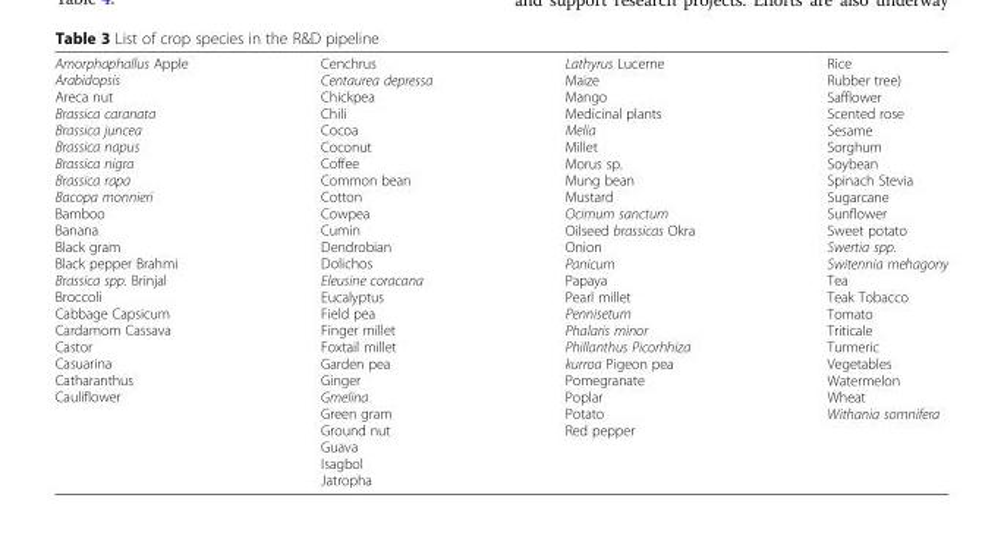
<table><tbody><tr><td>Amorphaphallus Apple Arabidopsis Areca nut Brassica caranata Brassica juncea Brassica napus Brassica nigra Brassica rapa Bacopa monnieri Bamboo Banana Black gram Black pepper Brahmi Brassica spp. Brinjal Broccoli Cabbage Capsicum Cardamom Cassava Castor Casuarina Catharanthus Cauliflower</td><td>Cenchrus Centaurea depressa Chickpea Chili Cocoa Coconut Coffee Common bean Cotton Cowpea Cumin Dendrobian Dolichos Eleusine coracana Eucalyptus Field pea Finger millet Foxtail millet Garden pea Ginger Gmelina Green gram Ground nut Guava Isagbol Jatropha</td><td>Lathyrus Lucerne Maize Mango Medicinal plants Melia Millet Morus sp. Mung bean Mustard Ocimum sanctum Oilseed brassicas Okra Onion Panicum Papaya Pearl millet Pennisetum Phalaris minor Phillanthus Picorhhiza kurroa Pigeon pea Pomegranate Poplar Potato Red pepper</td><td>Rice Rubber tree) Safflower Scented rose Sesame Sorghum Soybean Spinach Stevia Sugarcane Sunflower Sweet potato Swertia spp. Switennia mehagony Tea Teak Tobacco Tomato Triticale Turmeric Vegetables Watermelon Wheat Withania somnifera</td></tr></tbody></table>